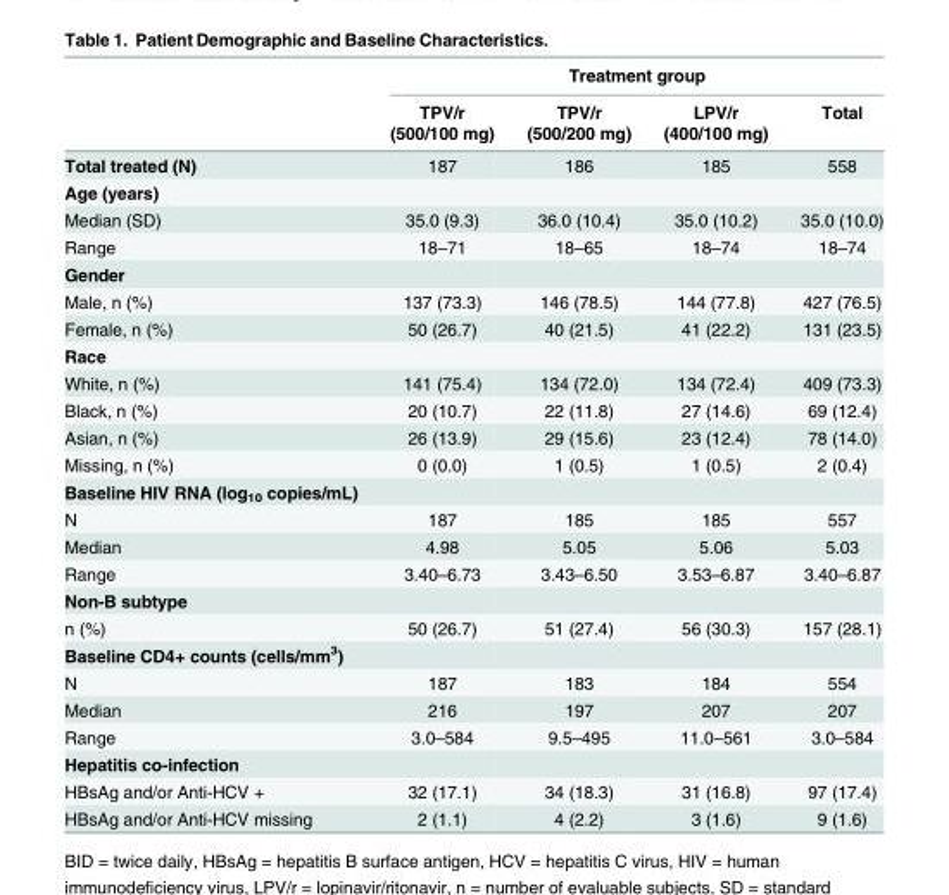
<table><thead><tr><td rowspan="2"></td><td colspan="4">Treatment group</td></tr><tr><td>TPV/r (500/100 mg)</td><td>TPV/r (500/200 mg)</td><td>LPV/r (400/100 mg)</td><td>Total</td></tr></thead><tbody><tr><td>Total treated (N)</td><td>187</td><td>186</td><td>185</td><td>558</td></tr><tr><td colspan="5">Age (years)</td></tr><tr><td>Median (SD)</td><td>35.0 (9.3)</td><td>36.0 (10.4)</td><td>35.0 (10.2)</td><td>35.0 (10.0)</td></tr><tr><td>Range</td><td>18–71</td><td>18–65</td><td>18–74</td><td>18–74</td></tr><tr><td colspan="5">Gender</td></tr><tr><td>Male, n (%)</td><td>137 (73.3)</td><td>146 (78.5)</td><td>144 (77.8)</td><td>427 (76.5)</td></tr><tr><td>Female, n (%)</td><td>50 (26.7)</td><td>40 (21.5)</td><td>41 (22.2)</td><td>131 (23.5)</td></tr><tr><td colspan="5">Race</td></tr><tr><td>White, n (%)</td><td>141 (75.4)</td><td>134 (72.0)</td><td>134 (72.4)</td><td>409 (73.3)</td></tr><tr><td>Black, n (%)</td><td>20 (10.7)</td><td>22 (11.8)</td><td>27 (14.6)</td><td>69 (12.4)</td></tr><tr><td>Asian, n (%)</td><td>26 (13.9)</td><td>29 (15.6)</td><td>23 (12.4)</td><td>78 (14.0)</td></tr><tr><td>Missing, n (%)</td><td>0 (0.0)</td><td>1 (0.5)</td><td>1 (0.5)</td><td>2 (0.4)</td></tr><tr><td colspan="5">Baseline HIV RNA (log<sub>10</sub> copies/mL)</td></tr><tr><td>N</td><td>187</td><td>185</td><td>185</td><td>557</td></tr><tr><td>Median</td><td>4.98</td><td>5.05</td><td>5.06</td><td>5.03</td></tr><tr><td>Range</td><td>3.40–6.73</td><td>3.43–6.50</td><td>3.53–6.87</td><td>3.40–6.87</td></tr><tr><td colspan="5">Non-B subtype</td></tr><tr><td>n (%)</td><td>50 (26.7)</td><td>51 (27.4)</td><td>56 (30.3)</td><td>157 (28.1)</td></tr><tr><td colspan="5">Baseline CD4+ counts (cells/mm<sup>3</sup>)</td></tr><tr><td>N</td><td>187</td><td>183</td><td>184</td><td>554</td></tr><tr><td>Median</td><td>216</td><td>197</td><td>207</td><td>207</td></tr><tr><td>Range</td><td>3.0–584</td><td>9.5–495</td><td>11.0–561</td><td>3.0–584</td></tr><tr><td colspan="5">Hepatitis co-infection</td></tr><tr><td>HBsAg and/or Anti-HCV +</td><td>32 (17.1)</td><td>34 (18.3)</td><td>31 (16.8)</td><td>97 (17.4)</td></tr><tr><td>HBsAg and/or Anti-HCV missing</td><td>2 (1.1)</td><td>4 (2.2)</td><td>3 (1.6)</td><td>9 (1.6)</td></tr></tbody></table>